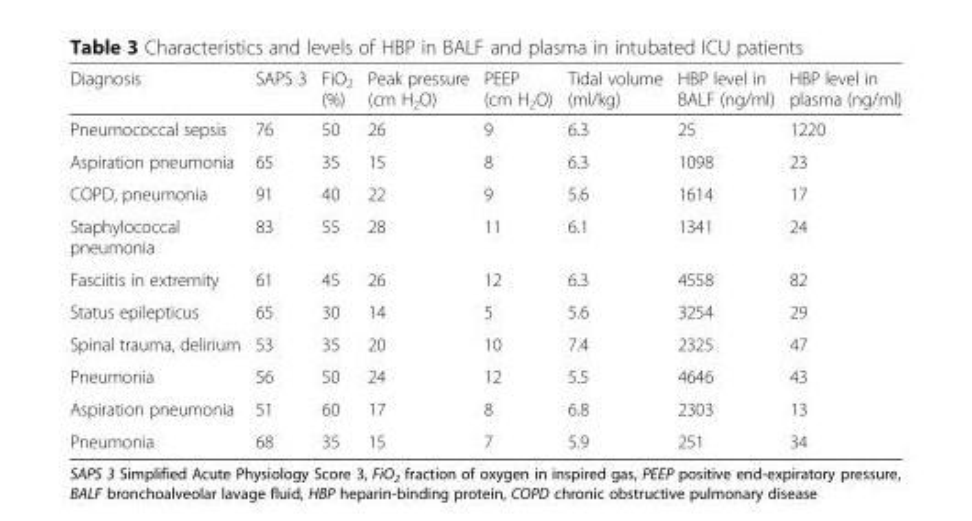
<table><thead><tr><td>Diagnosis</td><td>SAPS 3</td><td>FiO<sub>2</sub> (%)</td><td>Peak pressure (cm H<sub>2</sub>O)</td><td>PEEP (cm H<sub>2</sub>O)</td><td>Tidal volume (ml/kg)</td><td>HBP level in BALF (ng/ml)</td><td>HBP level in plasma (ng/ml)</td></tr></thead><tbody><tr><td>Pneumococcal sepsis</td><td>76</td><td>50</td><td>26</td><td>9</td><td>6.3</td><td>25</td><td>1220</td></tr><tr><td>Aspiration pneumonia</td><td>65</td><td>35</td><td>15</td><td>8</td><td>6.3</td><td>1098</td><td>23</td></tr><tr><td>COPD, pneumonia</td><td>91</td><td>40</td><td>22</td><td>9</td><td>5.6</td><td>1614</td><td>17</td></tr><tr><td>Staphylococcal pneumonia</td><td>83</td><td>55</td><td>28</td><td>11</td><td>6.1</td><td>1341</td><td>24</td></tr><tr><td>Fasciitis in extremity</td><td>61</td><td>45</td><td>26</td><td>12</td><td>6.3</td><td>4558</td><td>82</td></tr><tr><td>Status epilepticus</td><td>65</td><td>30</td><td>14</td><td>5</td><td>5.6</td><td>3254</td><td>29</td></tr><tr><td>Spinal trauma, delirium</td><td>53</td><td>35</td><td>20</td><td>10</td><td>7.4</td><td>2325</td><td>47</td></tr><tr><td>Pneumonia</td><td>56</td><td>50</td><td>24</td><td>12</td><td>5.5</td><td>4646</td><td>43</td></tr><tr><td>Aspiration pneumonia</td><td>51</td><td>60</td><td>17</td><td>8</td><td>6.8</td><td>2303</td><td>13</td></tr><tr><td>Pneumonia</td><td>68</td><td>35</td><td>15</td><td>7</td><td>5.9</td><td>251</td><td>34</td></tr></tbody></table>